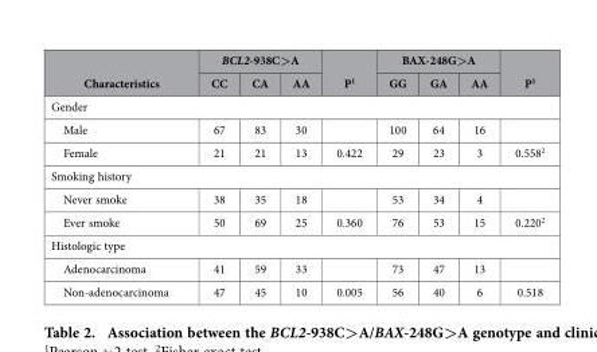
<table><thead><tr><td rowspan="2">Characteristics</td><td colspan="3">BCL2-938C&gt;A</td><td rowspan="2">P<sup>1</sup></td><td colspan="3">BAX-248G&gt;A</td><td rowspan="2">P<sup>1</sup></td></tr><tr><td>CC</td><td>CA</td><td>AA</td><td>GG</td><td>GA</td><td>AA</td></tr></thead><tbody><tr><td colspan="9">Gender</td></tr><tr><td>Male</td><td>67</td><td>83</td><td>30</td><td></td><td>100</td><td>64</td><td>16</td><td></td></tr><tr><td>Female</td><td>21</td><td>21</td><td>13</td><td>0.422</td><td>29</td><td>23</td><td>3</td><td>0.558<sup>2</sup></td></tr><tr><td colspan="9">Smoking history</td></tr><tr><td>Never smoke</td><td>38</td><td>35</td><td>18</td><td></td><td>53</td><td>34</td><td>4</td><td></td></tr><tr><td>Ever smoke</td><td>50</td><td>69</td><td>25</td><td>0.360</td><td>76</td><td>53</td><td>15</td><td>0.220<sup>2</sup></td></tr><tr><td colspan="9">Histologic type</td></tr><tr><td>Adenocarcinoma</td><td>41</td><td>59</td><td>33</td><td></td><td>73</td><td>47</td><td>13</td><td></td></tr><tr><td>Non-adenocarcinoma</td><td>47</td><td>45</td><td>10</td><td>0.005</td><td>56</td><td>40</td><td>6</td><td>0.518</td></tr></tbody></table>